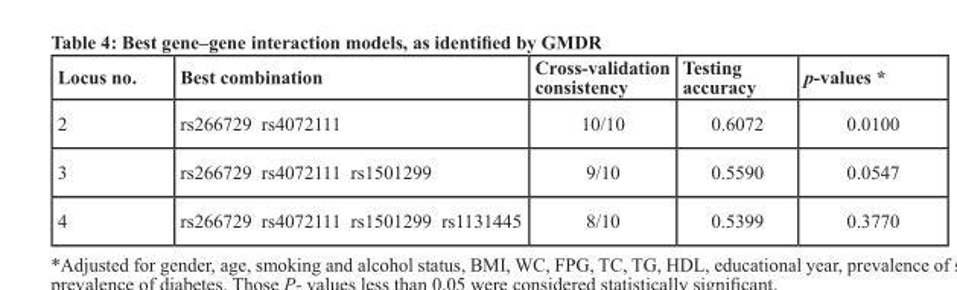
<table><thead><tr><td>Locus no.</td><td>Best combination</td><td>Cross-validation consistency</td><td>Testing accuracy</td><td>p-values *</td></tr></thead><tbody><tr><td>2</td><td>rs266729 rs4072111</td><td>10/10</td><td>0.6072</td><td>0.0100</td></tr><tr><td>3</td><td>rs266729 rs4072111 rs1501299</td><td>9/10</td><td>0.5590</td><td>0.0547</td></tr><tr><td>4</td><td>rs266729 rs4072111 rs1501299 rs1131445</td><td>8/10</td><td>0.5399</td><td>0.3770</td></tr></tbody></table>